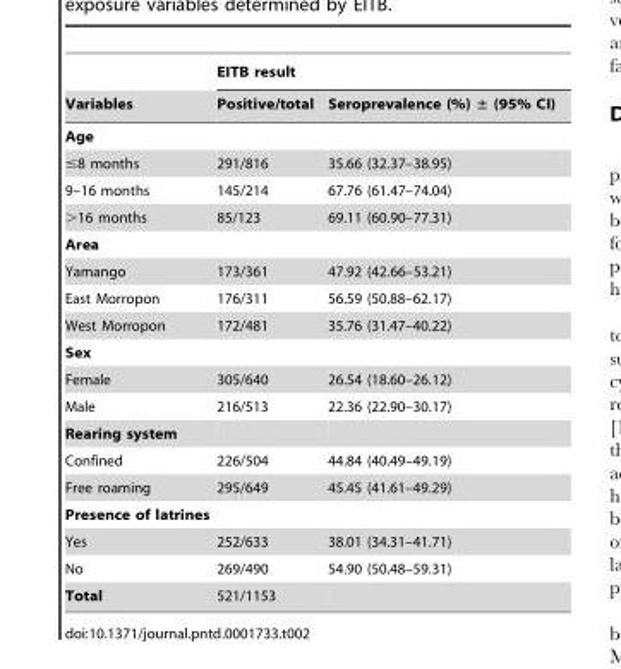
<table><thead><tr><td rowspan="2">Variables</td><td colspan="2">EITB result</td></tr><tr><td>Positive/total</td><td>Seroprevalence (%) ± (95% CI)</td></tr></thead><tbody><tr><td colspan="3">Age</td></tr><tr><td>≤8 months</td><td>291/816</td><td>35.66 (32.37–38.95)</td></tr><tr><td>9–16 months</td><td>145/214</td><td>67.76 (61.47–74.04)</td></tr><tr><td>&gt;16 months</td><td>85/123</td><td>69.11 (60.90–77.31)</td></tr><tr><td colspan="3">Area</td></tr><tr><td>Yamango</td><td>173/361</td><td>47.92 (42.66–53.21)</td></tr><tr><td>East Morropon</td><td>176/311</td><td>56.59 (50.88–62.17)</td></tr><tr><td>West Morropon</td><td>172/481</td><td>35.76 (31.47–40.22)</td></tr><tr><td colspan="3">Sex</td></tr><tr><td>Female</td><td>305/640</td><td>26.54 (18.60–26.12)</td></tr><tr><td>Male</td><td>216/513</td><td>22.36 (22.90–30.17)</td></tr><tr><td colspan="3">Rearing system</td></tr><tr><td>Confined</td><td>226/504</td><td>44.84 (40.49–49.19)</td></tr><tr><td>Free roaming</td><td>295/649</td><td>45.45 (41.61–49.29)</td></tr><tr><td colspan="3">Presence of latrines</td></tr><tr><td>Yes</td><td>252/633</td><td>38.01 (34.31–41.71)</td></tr><tr><td>No</td><td>269/490</td><td>54.90 (50.48–59.31)</td></tr><tr><td>Total</td><td>521/1153</td><td></td></tr></tbody></table>